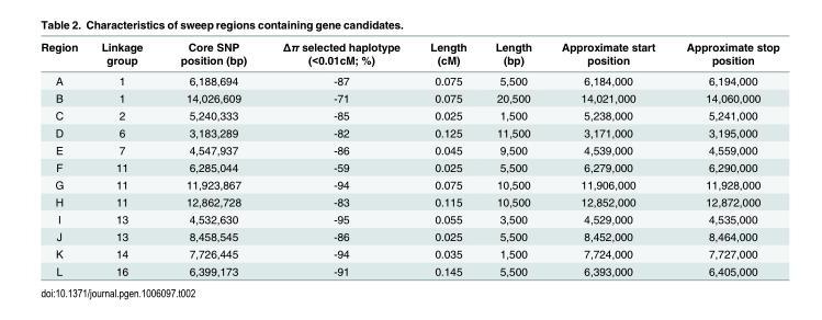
<table><thead><tr><td>Region</td><td>Linkage group</td><td>Core SNP position (bp)</td><td>Δπ selected haplotype (&lt;0.01cM; %)</td><td>Length (cM)</td><td>Length (bp)</td><td>Approximate start position</td><td>Approximate stop position</td></tr></thead><tbody><tr><td>A</td><td>1</td><td>6,188,694</td><td>-87</td><td>0.075</td><td>5,500</td><td>6,184,000</td><td>6,194,000</td></tr><tr><td>B</td><td>1</td><td>14,026,609</td><td>-71</td><td>0.075</td><td>20,500</td><td>14,021,000</td><td>14,060,000</td></tr><tr><td>C</td><td>2</td><td>5,240,333</td><td>-85</td><td>0.025</td><td>1,500</td><td>5,238,000</td><td>5,241,000</td></tr><tr><td>D</td><td>6</td><td>3,183,289</td><td>-82</td><td>0.125</td><td>11,500</td><td>3,171,000</td><td>3,195,000</td></tr><tr><td>E</td><td>7</td><td>4,547,937</td><td>-86</td><td>0.045</td><td>9,500</td><td>4,539,000</td><td>4,559,000</td></tr><tr><td>F</td><td>11</td><td>6,285,044</td><td>-59</td><td>0.025</td><td>5,500</td><td>6,279,000</td><td>6,290,000</td></tr><tr><td>G</td><td>11</td><td>11,923,867</td><td>-94</td><td>0.075</td><td>10,500</td><td>11,906,000</td><td>11,928,000</td></tr><tr><td>H</td><td>11</td><td>12,862,728</td><td>-83</td><td>0.115</td><td>10,500</td><td>12,852,000</td><td>12,872,000</td></tr><tr><td>I</td><td>13</td><td>4,532,630</td><td>-95</td><td>0.055</td><td>3,500</td><td>4,529,000</td><td>4,535,000</td></tr><tr><td>J</td><td>13</td><td>8,458,545</td><td>-86</td><td>0.025</td><td>5,500</td><td>8,452,000</td><td>8,464,000</td></tr><tr><td>K</td><td>14</td><td>7,726,445</td><td>-94</td><td>0.035</td><td>1,500</td><td>7,724,000</td><td>7,727,000</td></tr><tr><td>L</td><td>16</td><td>6,399,173</td><td>-91</td><td>0.145</td><td>5,500</td><td>6,393,000</td><td>6,405,000</td></tr></tbody></table>